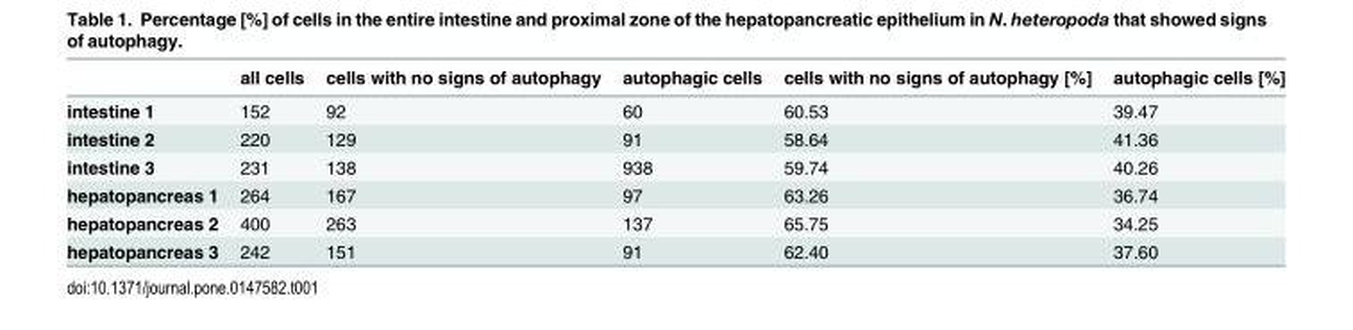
<table><thead><tr><td></td><td>all cells</td><td>cells with no signs of autophagy</td><td>autophagic cells</td><td>cells with no signs of autophagy [%]</td><td>autophagic cells [%]</td></tr></thead><tbody><tr><td>intestine 1</td><td>152</td><td>92</td><td>60</td><td>60.53</td><td>39.47</td></tr><tr><td>intestine 2</td><td>220</td><td>129</td><td>91</td><td>58.64</td><td>41.36</td></tr><tr><td>intestine 3</td><td>231</td><td>138</td><td>938</td><td>59.74</td><td>40.26</td></tr><tr><td>hepatopancreas 1</td><td>264</td><td>167</td><td>97</td><td>63.26</td><td>36.74</td></tr><tr><td>hepatopancreas 2</td><td>400</td><td>263</td><td>137</td><td>65.75</td><td>34.25</td></tr><tr><td>hepatopancreas 3</td><td>242</td><td>151</td><td>91</td><td>62.40</td><td>37.60</td></tr></tbody></table>